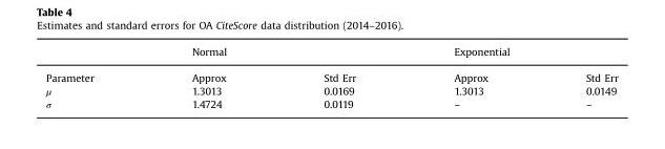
<table><thead><tr><td rowspan="2">Parameter</td><td colspan="2">Normal</td><td colspan="2">Exponential</td></tr><tr><td>Approx</td><td>Std Err</td><td>Approx</td><td>Std Err</td></tr></thead><tbody><tr><td>µ</td><td>1.3013</td><td>0.0169</td><td>1.3013</td><td>0.0149</td></tr><tr><td>σ</td><td>1.4724</td><td>0.0119</td><td>–</td><td>–</td></tr></tbody></table>